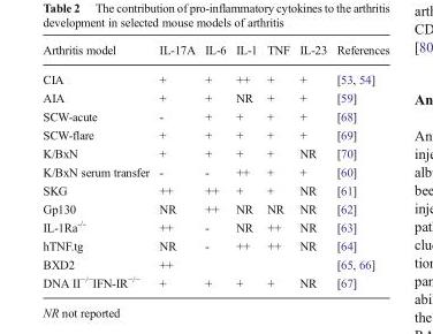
<table><thead><tr><td>Arthritis model</td><td>IL-17A</td><td>IL-6</td><td>IL-1</td><td>TNF</td><td>IL-23</td><td>References</td></tr></thead><tbody><tr><td>CIA</td><td>+</td><td>+</td><td>++</td><td>+</td><td>+</td><td>[53, 54]</td></tr><tr><td>AIA</td><td>+</td><td>+</td><td>NR</td><td>+</td><td>+</td><td>[59]</td></tr><tr><td>SCW-acute</td><td>-</td><td>+</td><td>+</td><td>+</td><td>+</td><td>[68]</td></tr><tr><td>SCW-flare</td><td>+</td><td>+</td><td>+</td><td>+</td><td>+</td><td>[69]</td></tr><tr><td>K/BxN</td><td>+</td><td>+</td><td>+</td><td>+</td><td>NR</td><td>[70]</td></tr><tr><td>K/BxN serum transfer</td><td>-</td><td>-</td><td>++</td><td>+</td><td>+</td><td>[60]</td></tr><tr><td>SKG</td><td>++</td><td>++</td><td>+</td><td>+</td><td>NR</td><td>[61]</td></tr><tr><td>Gp130</td><td>NR</td><td>++</td><td>NR</td><td>NR</td><td>NR</td><td>[62]</td></tr><tr><td>IL-1Ra<sup>-/-</sup></td><td>++</td><td>-</td><td>NR</td><td>++</td><td>NR</td><td>[63]</td></tr><tr><td>hTNF.tg</td><td>NR</td><td>-</td><td>++</td><td>++</td><td>NR</td><td>[64]</td></tr><tr><td>BXD2</td><td>++</td><td></td><td></td><td></td><td></td><td>[65, 66]</td></tr><tr><td>DNA II<sup>−/−</sup>IFN-IR<sup>−/−</sup></td><td>+</td><td>+</td><td>+</td><td>+</td><td>NR</td><td>[67]</td></tr></tbody></table>